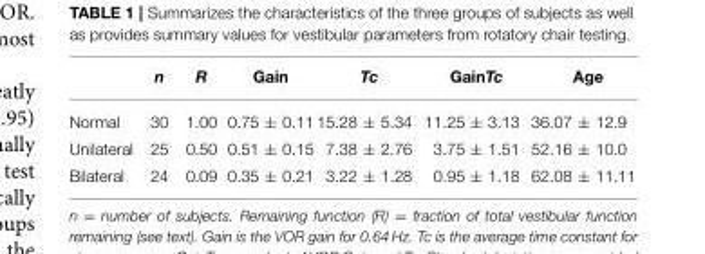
<table><thead><tr><td></td><td>n</td><td>R</td><td>Gain</td><td>Tc</td><td>GainTc</td><td>Age</td></tr></thead><tbody><tr><td>Normal</td><td>30</td><td>1.00</td><td>0.75 ± 0.11</td><td>15.28 ± 5.34</td><td>11.25 ± 3.13</td><td>36.07 ± 12.9</td></tr><tr><td>Unilateral</td><td>25</td><td>0.50</td><td>0.51 ± 0.15</td><td>7.38 ± 2.76</td><td>3.75 ± 1.51</td><td>52.16 ± 10.0</td></tr><tr><td>Bilateral</td><td>24</td><td>0.09</td><td>0.35 ± 0.21</td><td>3.22 ± 1.28</td><td>0.95 ± 1.18</td><td>62.08 ± 11.11</td></tr></tbody></table>